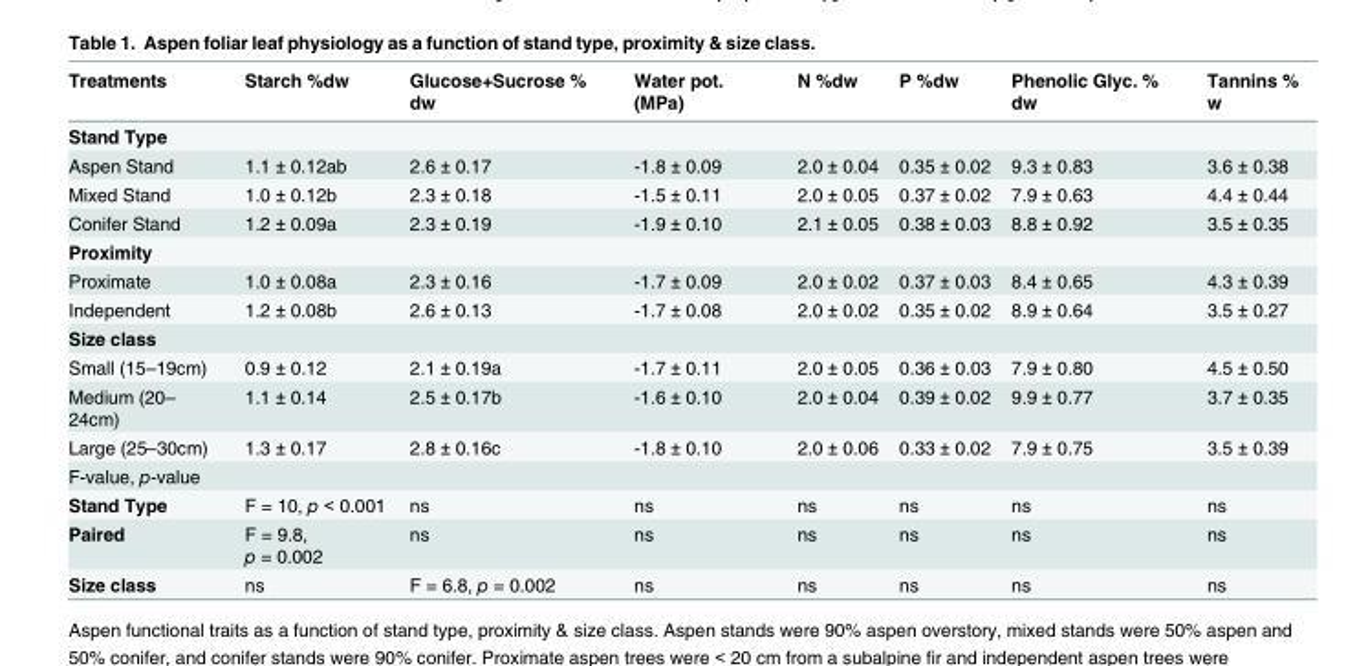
<table><thead><tr><td>Treatments</td><td>Starch %dw</td><td>Glucose+Sucrose % dw</td><td>Water pot. (MPa)</td><td>N %dw</td><td>P %dw</td><td>Phenolic Glyc. % dw</td><td>Tannins % w</td></tr></thead><tbody><tr><td colspan="8">Stand Type</td></tr><tr><td>Aspen Stand</td><td>1.1 ± 0.12ab</td><td>2.6 ± 0.17</td><td>-1.8 ± 0.09</td><td>2.0 ± 0.04</td><td>0.35 ± 0.02</td><td>9.3 ± 0.83</td><td>3.6 ± 0.38</td></tr><tr><td>Mixed Stand</td><td>1.0 ± 0.12b</td><td>2.3 ± 0.18</td><td>-1.5 ± 0.11</td><td>2.0 ± 0.05</td><td>0.37 ± 0.02</td><td>7.9 ± 0.63</td><td>4.4 ± 0.44</td></tr><tr><td>Conifer Stand</td><td>1.2 ± 0.09a</td><td>2.3 ± 0.19</td><td>-1.9 ± 0.10</td><td>2.1 ± 0.05</td><td>0.38 ± 0.03</td><td>8.8 ± 0.92</td><td>3.5 ± 0.35</td></tr><tr><td colspan="8">Proximity</td></tr><tr><td>Proximate</td><td>1.0 ± 0.08a</td><td>2.3 ± 0.16</td><td>-1.7 ± 0.09</td><td>2.0 ± 0.02</td><td>0.37 ± 0.03</td><td>8.4 ± 0.65</td><td>4.3 ± 0.39</td></tr><tr><td>Independent</td><td>1.2 ± 0.08b</td><td>2.6 ± 0.13</td><td>-1.7 ± 0.08</td><td>2.0 ± 0.02</td><td>0.35 ± 0.02</td><td>8.9 ± 0.64</td><td>3.5 ± 0.27</td></tr><tr><td colspan="8">Size class</td></tr><tr><td>Small (15–19cm)</td><td>0.9 ± 0.12</td><td>2.1 ± 0.19a</td><td>-1.7 ± 0.11</td><td>2.0 ± 0.05</td><td>0.36 ± 0.03</td><td>7.9 ± 0.80</td><td>4.5 ± 0.50</td></tr><tr><td>Medium (20– 24cm)</td><td>1.1 ± 0.14</td><td>2.5 ± 0.17b</td><td>-1.6 ± 0.10</td><td>2.0 ± 0.04</td><td>0.39 ± 0.02</td><td>9.9 ± 0.77</td><td>3.7 ± 0.35</td></tr><tr><td>Large (25–30cm)</td><td>1.3 ± 0.17</td><td>2.8 ± 0.16c</td><td>-1.8 ± 0.10</td><td>2.0 ± 0.06</td><td>0.33 ± 0.02</td><td>7.9 ± 0.75</td><td>3.5 ± 0.39</td></tr><tr><td colspan="8">F-value, p-value</td></tr><tr><td>Stand Type</td><td>F = 10, p &lt; 0.001</td><td>ns</td><td>ns</td><td>ns</td><td>ns</td><td>ns</td><td>ns</td></tr><tr><td>Paired</td><td>F = 9.8, p = 0.002</td><td>ns</td><td>ns</td><td>ns</td><td>ns</td><td>ns</td><td>ns</td></tr><tr><td>Size class</td><td>ns</td><td>F = 6.8, p = 0.002</td><td>ns</td><td>ns</td><td>ns</td><td>ns</td><td>ns</td></tr></tbody></table>